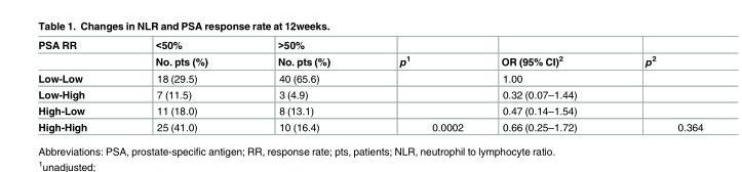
<table><thead><tr><td rowspan="2">PSA RR</td><td rowspan="2">&lt;50% No. pts (%)</td><td rowspan="2">&gt;50% No. pts (%)</td><td rowspan="2">p<sup>1</sup></td><td rowspan="2">OR (95% CI)<sup>2</sup></td><td rowspan="2">p<sup>2</sup></td></tr><tr></tr></thead><tbody><tr><td>Low-Low</td><td>18 (29.5)</td><td>40 (65.6)</td><td></td><td>1.00</td><td></td></tr><tr><td>Low-High</td><td>7 (11.5)</td><td>3 (4.9)</td><td></td><td>0.32 (0.07–1.44)</td><td></td></tr><tr><td>High-Low</td><td>11 (18.0)</td><td>8 (13.1)</td><td></td><td>0.47 (0.14–1.54)</td><td></td></tr><tr><td>High-High</td><td>25 (41.0)</td><td>10 (16.4)</td><td>0.0002</td><td>0.66 (0.25–1.72)</td><td>0.364</td></tr></tbody></table>